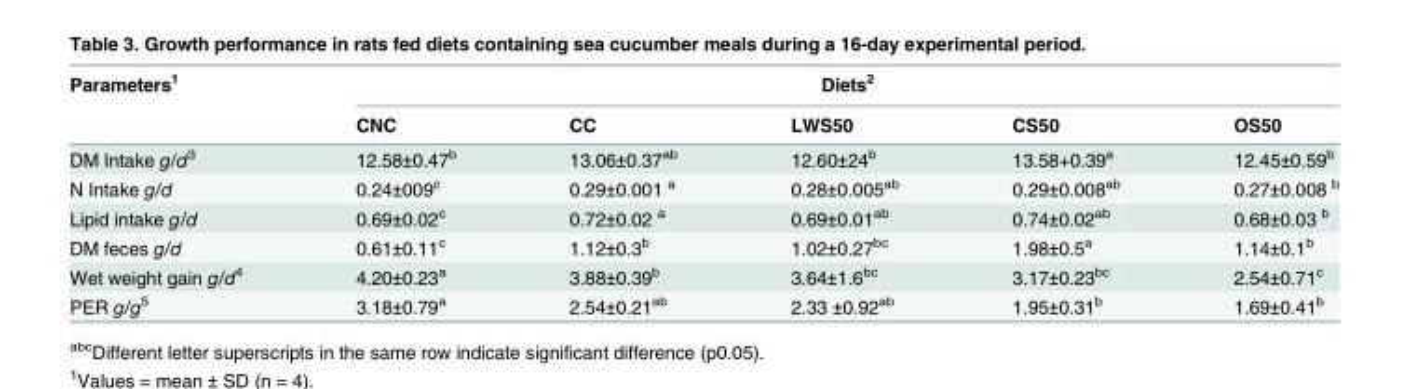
<table><thead><tr><td rowspan="2">Parameters<sup>1</sup></td><td colspan="5">Diets<sup>2</sup></td></tr><tr><td>CNC</td><td>CC</td><td>LWS50</td><td>CS50</td><td>OS50</td></tr></thead><tbody><tr><td>DM Intake g/d<sup>3</sup></td><td>12.58±0.47<sup>b</sup></td><td>13.06±0.37<sup>ab</sup></td><td>12.60±24<sup>b</sup></td><td>13.58+0.39<sup>a</sup></td><td>12.45±0.59<sup>b</sup></td></tr><tr><td>N Intake g/d</td><td>0.24±009<sup>c</sup></td><td>0.29±0.001 <sup>a</sup></td><td>0.28±0.005<sup>ab</sup></td><td>0.29±0.008<sup>ab</sup></td><td>0.27±0.008 <sup>b</sup></td></tr><tr><td>Lipid intake g/d</td><td>0.69±0.02<sup>c</sup></td><td>0.72±0.02 <sup>a</sup></td><td>0.69±0.01<sup>ab</sup></td><td>0.74±0.02<sup>ab</sup></td><td>0.68±0.03 <sup>b</sup></td></tr><tr><td>DM feces g/d</td><td>0.61±0.11<sup>c</sup></td><td>1.12±0.3<sup>b</sup></td><td>1.02±0.27<sup>bc</sup></td><td>1.98±0.5<sup>a</sup></td><td>1.14±0.1<sup>b</sup></td></tr><tr><td>Wet weight gain g/d<sup>4</sup></td><td>4.20±0.23<sup>a</sup></td><td>3.88±0.39<sup>b</sup></td><td>3.64±1.6<sup>bc</sup></td><td>3.17±0.23<sup>bc</sup></td><td>2.54±0.71<sup>c</sup></td></tr><tr><td>PER g/g<sup>5</sup></td><td>3.18±0.79<sup>a</sup></td><td>2.54±0.21<sup>ab</sup></td><td>2.33 ±0.92<sup>ab</sup></td><td>1.95±0.31<sup>b</sup></td><td>1.69±0.41<sup>b</sup></td></tr></tbody></table>